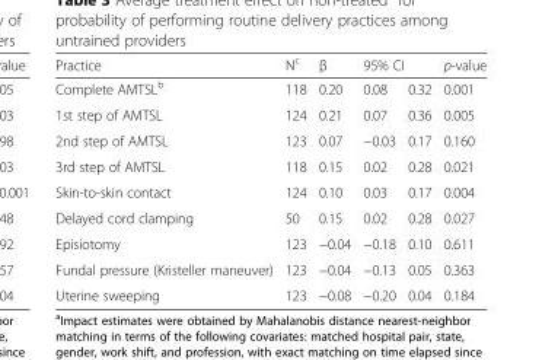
<table><thead><tr><td rowspan="2">Practice Complete AMTSL<sup>b</sup></td><td rowspan="2">N<sup>c</sup> 118</td><td rowspan="2">β 0.20</td><td colspan="2">95% CI</td><td rowspan="2">p-value 0.001</td></tr><tr><td>0.08</td><td>0.32</td></tr></thead><tbody><tr><td>1st step of AMTSL</td><td>124</td><td>0.21</td><td>0.07</td><td>0.36</td><td>0.005</td></tr><tr><td>2nd step of AMTSL</td><td>123</td><td>0.07</td><td>−0.03</td><td>0.17</td><td>0.160</td></tr><tr><td>3rd step of AMTSL</td><td>118</td><td>0.15</td><td>0.02</td><td>0.28</td><td>0.021</td></tr><tr><td>Skin-to-skin contact</td><td>124</td><td>0.10</td><td>0.03</td><td>0.17</td><td>0.004</td></tr><tr><td>Delayed cord clamping</td><td>50</td><td>0.15</td><td>0.02</td><td>0.28</td><td>0.027</td></tr><tr><td>Episiotomy</td><td>123</td><td>−0.04</td><td>−0.18</td><td>0.10</td><td>0.611</td></tr><tr><td>Fundal pressure (Kristeller maneuver)</td><td>123</td><td>−0.04</td><td>−0.13</td><td>0.05</td><td>0.363</td></tr><tr><td>Uterine sweeping</td><td>123</td><td>−0.08</td><td>−0.20</td><td>0.04</td><td>0.184</td></tr></tbody></table>